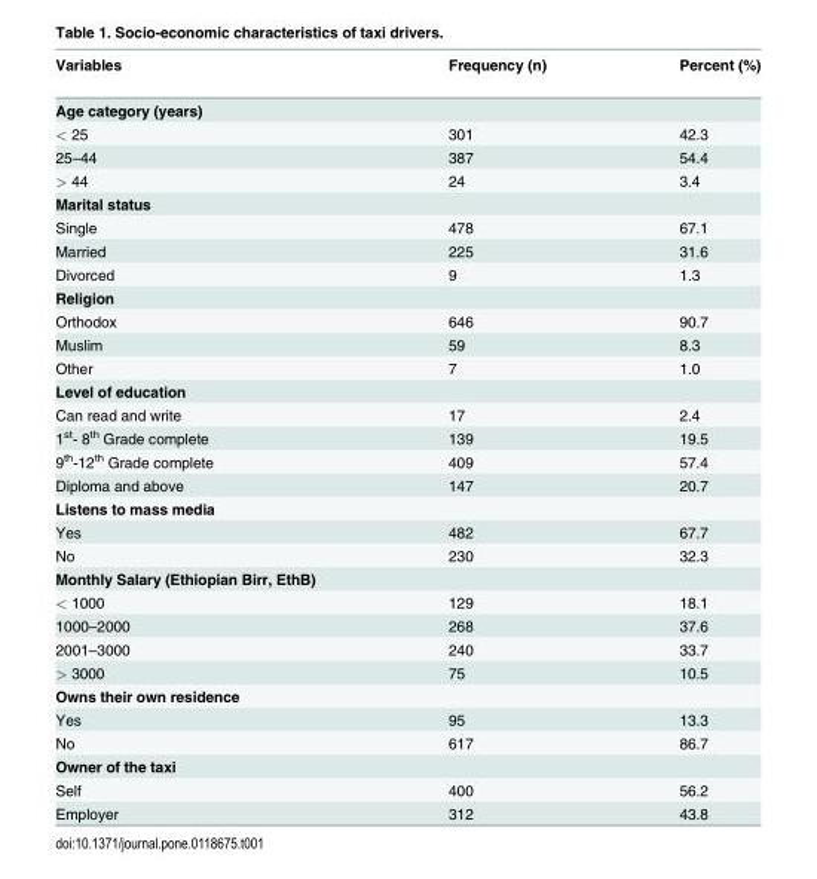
<table><thead><tr><td>Variables</td><td>Frequency (n)</td><td>Percent (%)</td></tr></thead><tbody><tr><td colspan="3">Age category (years)</td></tr><tr><td>&lt; 25</td><td>301</td><td>42.3</td></tr><tr><td>25–44</td><td>387</td><td>54.4</td></tr><tr><td>&gt; 44</td><td>24</td><td>3.4</td></tr><tr><td colspan="3">Marital status</td></tr><tr><td>Single</td><td>478</td><td>67.1</td></tr><tr><td>Married</td><td>225</td><td>31.6</td></tr><tr><td>Divorced</td><td>9</td><td>1.3</td></tr><tr><td colspan="3">Religion</td></tr><tr><td>Orthodox</td><td>646</td><td>90.7</td></tr><tr><td>Muslim</td><td>59</td><td>8.3</td></tr><tr><td>Other</td><td>7</td><td>1.0</td></tr><tr><td colspan="3">Level of education</td></tr><tr><td>Can read and write</td><td>17</td><td>2.4</td></tr><tr><td>1<sup>st</sup>- 8<sup>th</sup> Grade complete</td><td>139</td><td>19.5</td></tr><tr><td>9<sup>th</sup>-12<sup>th</sup> Grade complete</td><td>409</td><td>57.4</td></tr><tr><td>Diploma and above</td><td>147</td><td>20.7</td></tr><tr><td colspan="3">Listens to mass media</td></tr><tr><td>Yes</td><td>482</td><td>67.7</td></tr><tr><td>No</td><td>230</td><td>32.3</td></tr><tr><td colspan="3">Monthly Salary (Ethiopian Birr, EthB)</td></tr><tr><td>&lt; 1000</td><td>129</td><td>18.1</td></tr><tr><td>1000–2000</td><td>268</td><td>37.6</td></tr><tr><td>2001–3000</td><td>240</td><td>33.7</td></tr><tr><td>&gt; 3000</td><td>75</td><td>10.5</td></tr><tr><td colspan="3">Owns their own residence</td></tr><tr><td>Yes</td><td>95</td><td>13.3</td></tr><tr><td>No</td><td>617</td><td>86.7</td></tr><tr><td colspan="3">Owner of the taxi</td></tr><tr><td>Self</td><td>400</td><td>56.2</td></tr><tr><td>Employer</td><td>312</td><td>43.8</td></tr></tbody></table>